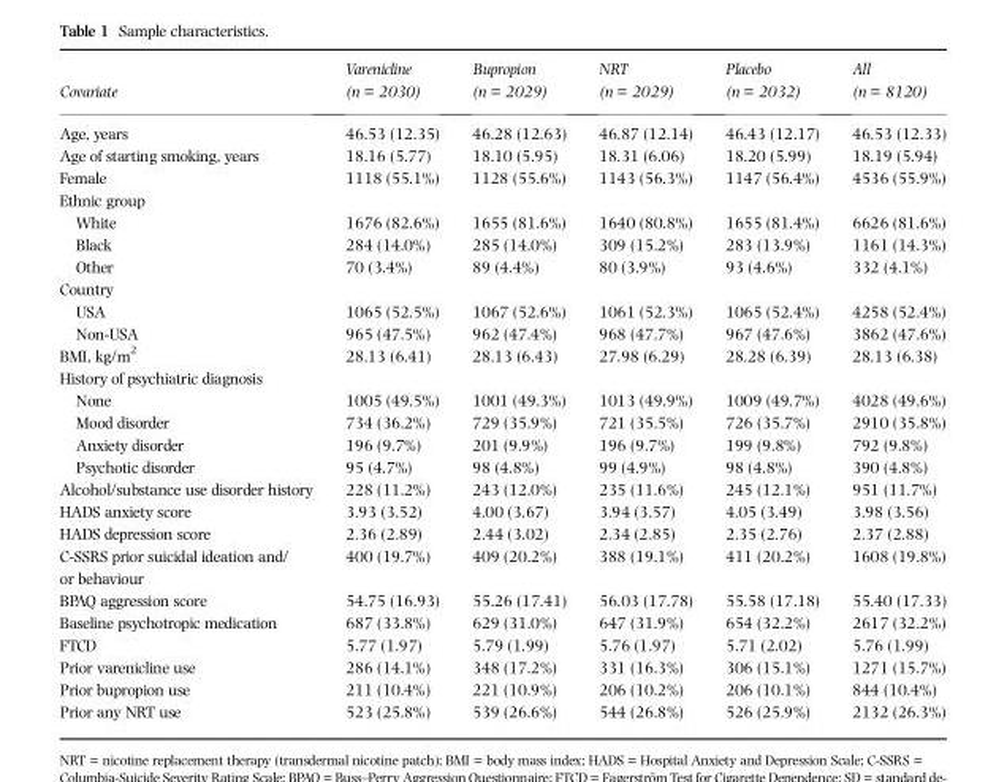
<table><thead><tr><td rowspan="2">Covariate</td><td rowspan="2">Varenicline (n = 2030)</td><td rowspan="2">Bupropion (n = 2029)</td><td rowspan="2">NRT (n = 2029)</td><td rowspan="2">Placebo (n = 2032)</td><td rowspan="2">All (n = 8120)</td></tr><tr></tr></thead><tbody><tr><td>Age, years</td><td>46.53 (12.35)</td><td>46.28 (12.63)</td><td>46.87 (12.14)</td><td>46.43 (12.17)</td><td>46.53 (12.33)</td></tr><tr><td>Age of starting smoking, years</td><td>18.16 (5.77)</td><td>18.10 (5.95)</td><td>18.31 (6.06)</td><td>18.20 (5.99)</td><td>18.19 (5.94)</td></tr><tr><td>Female</td><td>1118 (55.1%)</td><td>1128 (55.6%)</td><td>1143 (56.3%)</td><td>1147 (56.4%)</td><td>4536 (55.9%)</td></tr><tr><td colspan="6">Ethnic group</td></tr><tr><td>White</td><td>1676 (82.6%)</td><td>1655 (81.6%)</td><td>1640 (80.8%)</td><td>1655 (81.4%)</td><td>6626 (81.6%)</td></tr><tr><td>Black</td><td>284 (14.0%)</td><td>285 (14.0%)</td><td>309 (15.2%)</td><td>283 (13.9%)</td><td>1161 (14.3%)</td></tr><tr><td>Other</td><td>70 (3.4%)</td><td>89 (4.4%)</td><td>80 (3.9%)</td><td>93 (4.6%)</td><td>332 (4.1%)</td></tr><tr><td colspan="6">Country</td></tr><tr><td>USA</td><td>1065 (52.5%)</td><td>1067 (52.6%)</td><td>1061 (52.3%)</td><td>1065 (52.4%)</td><td>4258 (52.4%)</td></tr><tr><td>Non-USA</td><td>965 (47.5%)</td><td>962 (47.4%)</td><td>968 (47.7%)</td><td>967 (47.6%)</td><td>3862 (47.6%)</td></tr><tr><td>BMI, kg/m<sup>2</sup></td><td>28.13 (6.41)</td><td>28.13 (6.43)</td><td>27.98 (6.29)</td><td>28.28 (6.39)</td><td>28.13 (6.38)</td></tr><tr><td colspan="6">History of psychiatric diagnosis</td></tr><tr><td>None</td><td>1005 (49.5%)</td><td>1001 (49.3%)</td><td>1013 (49.9%)</td><td>1009 (49.7%)</td><td>4028 (49.6%)</td></tr><tr><td>Mood disorder</td><td>734 (36.2%)</td><td>729 (35.9%)</td><td>721 (35.5%)</td><td>726 (35.7%)</td><td>2910 (35.8%)</td></tr><tr><td>Anxiety disorder</td><td>196 (9.7%)</td><td>201 (9.9%)</td><td>196 (9.7%)</td><td>199 (9.8%)</td><td>792 (9.8%)</td></tr><tr><td>Psychotic disorder</td><td>95 (4.7%)</td><td>98 (4.8%)</td><td>99 (4.9%)</td><td>98 (4.8%)</td><td>390 (4.8%)</td></tr><tr><td>Alcohol/substance use disorder history</td><td>228 (11.2%)</td><td>243 (12.0%)</td><td>235 (11.6%)</td><td>245 (12.1%)</td><td>951 (11.7%)</td></tr><tr><td>HADS anxiety score</td><td>3.93 (3.52)</td><td>4.00 (3.67)</td><td>3.94 (3.57)</td><td>4.05 (3.49)</td><td>3.98 (3.56)</td></tr><tr><td>HADS depression score</td><td>2.36 (2.89)</td><td>2.44 (3.02)</td><td>2.34 (2.85)</td><td>2.35 (2.76)</td><td>2.37 (2.88)</td></tr><tr><td>C-SSRS prior suicidal ideation and/ or behaviour</td><td>400 (19.7%)</td><td>409 (20.2%)</td><td>388 (19.1%)</td><td>411 (20.2%)</td><td>1608 (19.8%)</td></tr><tr><td>BPAQ aggression score</td><td>54.75 (16.93)</td><td>55.26 (17.41)</td><td>56.03 (17.78)</td><td>55.58 (17.18)</td><td>55.40 (17.33)</td></tr><tr><td>Baseline psychotropic medication</td><td>687 (33.8%)</td><td>629 (31.0%)</td><td>647 (31.9%)</td><td>654 (32.2%)</td><td>2617 (32.2%)</td></tr><tr><td>FTCD</td><td>5.77 (1.97)</td><td>5.79 (1.99)</td><td>5.76 (1.97)</td><td>5.71 (2.02)</td><td>5.76 (1.99)</td></tr><tr><td>Prior varenicline use</td><td>286 (14.1%)</td><td>348 (17.2%)</td><td>331 (16.3%)</td><td>306 (15.1%)</td><td>1271 (15.7%)</td></tr><tr><td>Prior bupropion use</td><td>211 (10.4%)</td><td>221 (10.9%)</td><td>206 (10.2%)</td><td>206 (10.1%)</td><td>844 (10.4%)</td></tr><tr><td>Prior any NRT use</td><td>523 (25.8%)</td><td>539 (26.6%)</td><td>544 (26.8%)</td><td>526 (25.9%)</td><td>2132 (26.3%)</td></tr></tbody></table>